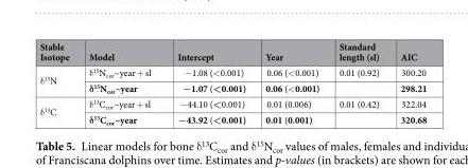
<table><thead><tr><td>Stable Isotope</td><td>Model</td><td>Intercept</td><td>Year</td><td>Standard length (sl)</td><td>AIC</td></tr></thead><tbody><tr><td rowspan="2">δ<sup>15</sup>N</td><td>δ<sup>15</sup>N<sub>cor</sub>~year + sl</td><td>−1.08 (&lt;0.001)</td><td>0.06 (&lt;0.001)</td><td>0.01 (0.92)</td><td>300.20</td></tr><tr><td>δ<sup>15</sup>N<sub>cor</sub>~year</td><td>−1.07 (&lt;0.001)</td><td>0.06 (&lt;0.001)</td><td></td><td>298.21</td></tr><tr><td rowspan="2">δ<sup>13</sup>C</td><td>δ<sup>13</sup>C<sub>cor</sub>~year + sl</td><td>−44.10 (&lt;0.001)</td><td>0.01 (0.006)</td><td>0.01 (0.42)</td><td>322.04</td></tr><tr><td>δ<sup>13</sup>C<sub>cor</sub>~year</td><td>−43.92 (&lt;0.001)</td><td>0.01 (0.001)</td><td></td><td>320.68</td></tr></tbody></table>